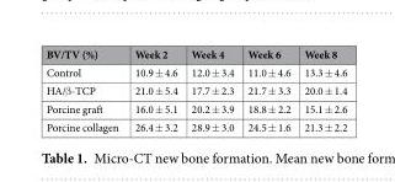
<table><thead><tr><td>BV/TV (%)</td><td>Week 2</td><td>Week 4</td><td>Week 6</td><td>Week 8</td></tr></thead><tbody><tr><td>Control</td><td>10.9 ± 4.6</td><td>12.0 ± 3.4</td><td>11.0 ± 4.6</td><td>13.3 ± 4.6</td></tr><tr><td>HA/β-TCP</td><td>21.0 ± 5.4</td><td>17.7 ± 2.3</td><td>21.7 ± 3.3</td><td>20.0 ± 1.4</td></tr><tr><td>Porcine graft</td><td>16.0 ± 5.1</td><td>20.2 ± 3.9</td><td>18.8 ± 2.2</td><td>15.1 ± 2.6</td></tr><tr><td>Porcine collagen</td><td>26.4 ± 3.2</td><td>28.9 ± 3.0</td><td>24.5 ± 1.6</td><td>21.3 ± 2.2</td></tr></tbody></table>